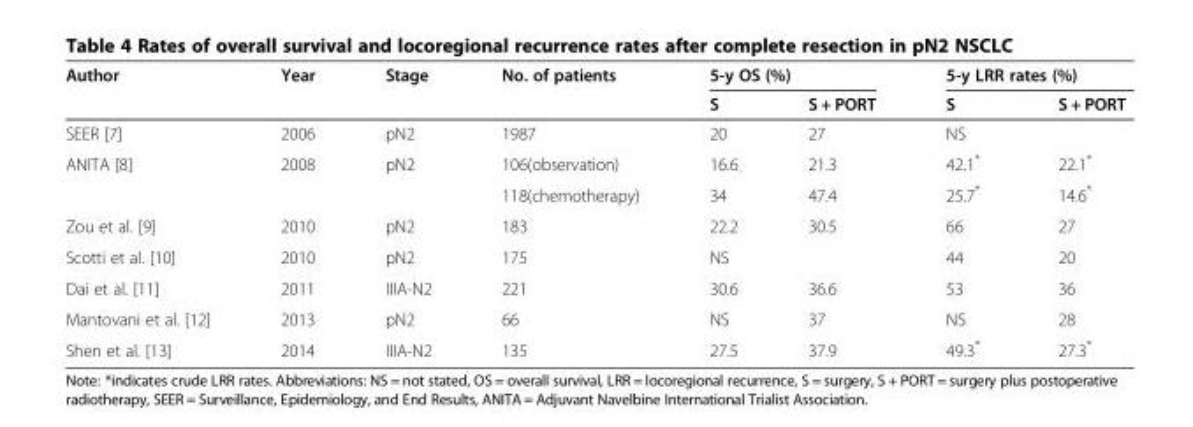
<table><thead><tr><td rowspan="2">Author</td><td rowspan="2">Year</td><td rowspan="2">Stage</td><td rowspan="2">No. of patients</td><td colspan="2">5-y OS (%)</td><td colspan="2">5-y LRR rates (%)</td></tr><tr><td>S</td><td>S + PORT</td><td>S</td><td>S + PORT</td></tr></thead><tbody><tr><td>SEER [7]</td><td>2006</td><td>pN2</td><td>1987</td><td>20</td><td>27</td><td colspan="2">NS</td></tr><tr><td rowspan="2">ANITA [8]</td><td rowspan="2">2008</td><td rowspan="2">pN2</td><td>106(observation)</td><td>16.6</td><td>21.3</td><td>42.1*</td><td>22.1*</td></tr><tr><td>118(chemotherapy)</td><td>34</td><td>47.4</td><td>25.7*</td><td>14.6*</td></tr><tr><td>Zou et al. [9]</td><td>2010</td><td>pN2</td><td>183</td><td>22.2</td><td>30.5</td><td>66</td><td>27</td></tr><tr><td>Scotti et al. [10]</td><td>2010</td><td>pN2</td><td>175</td><td colspan="2">NS</td><td>44</td><td>20</td></tr><tr><td>Dai et al. [11]</td><td>2011</td><td>IIIA-N2</td><td>221</td><td>30.6</td><td>36.6</td><td>53</td><td>36</td></tr><tr><td>Mantovani et al. [12]</td><td>2013</td><td>pN2</td><td>66</td><td>NS</td><td>37</td><td>NS</td><td>28</td></tr><tr><td>Shen et al. [13]</td><td>2014</td><td>IIIA-N2</td><td>135</td><td>27.5</td><td>37.9</td><td>49.3*</td><td>27.3*</td></tr></tbody></table>